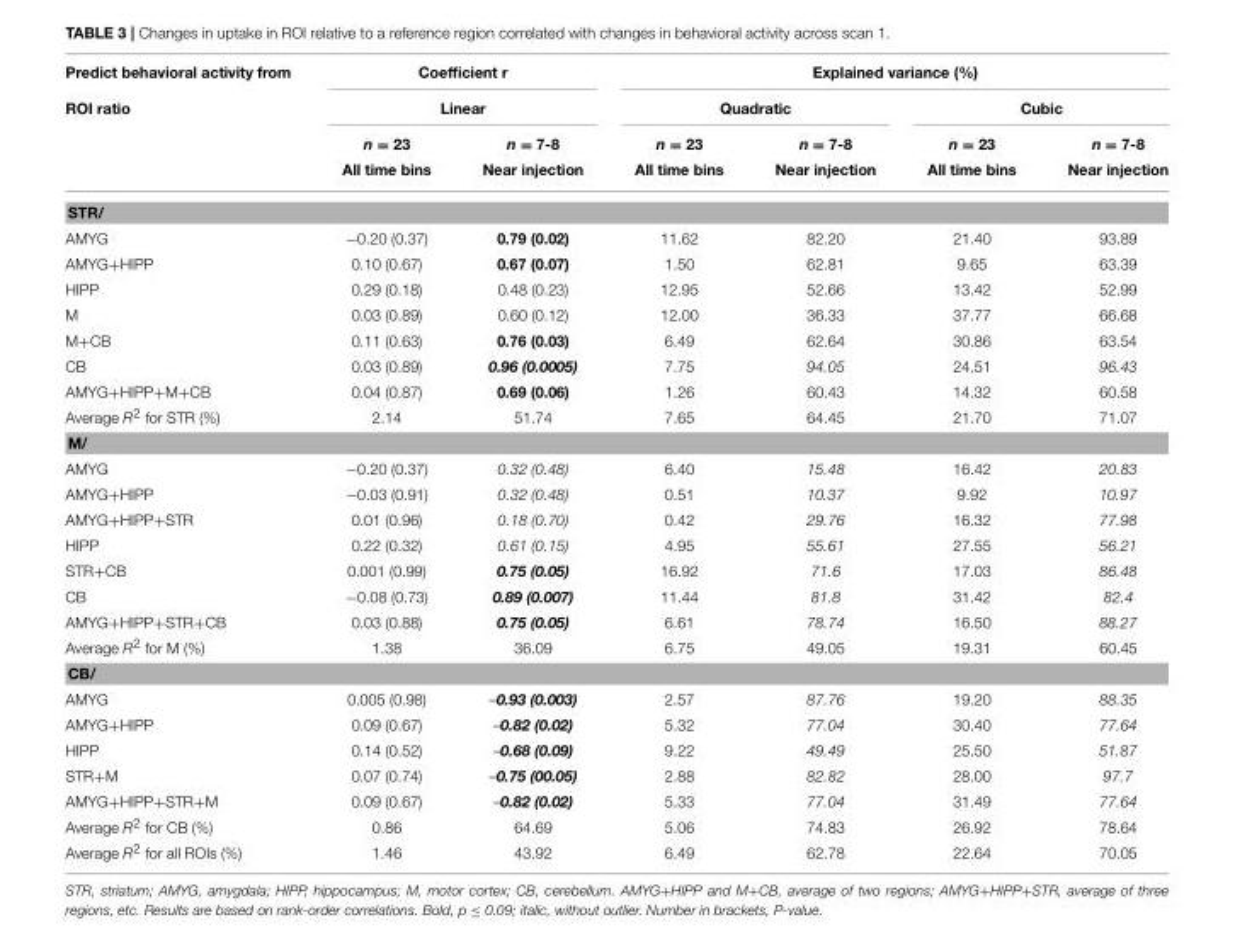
<table><thead><tr><td rowspan="4">Predict behavioral activity from ROI ratio</td><td rowspan="2" colspan="2">Coefficient r Linear</td><td colspan="4">Explained variance (%)</td></tr><tr><td colspan="2">Quadratic</td><td colspan="2">Cubic</td></tr><tr><td rowspan="2">n = 23 All time bins</td><td rowspan="2">n = 7-8 Near injection</td><td rowspan="2">n = 23 All time bins</td><td rowspan="2">n = 7-8 Near injection</td><td rowspan="2">n = 23 All time bins</td><td rowspan="2">n = 7-8 Near injection</td></tr><tr></tr></thead><tbody><tr><td colspan="7">STR/</td></tr><tr><td>AMYG</td><td>−0.20 (0.37)</td><td>0.79 (0.02)</td><td>11.62</td><td>82.20</td><td>21.40</td><td>93.89</td></tr><tr><td>AMYG+HIPP</td><td>0.10 (0.67)</td><td>0.67 (0.07)</td><td>1.50</td><td>62.81</td><td>9.65</td><td>63.39</td></tr><tr><td>HIPP</td><td>0.29 (0.18)</td><td>0.48 (0.23)</td><td>12.95</td><td>52.66</td><td>13.42</td><td>52.99</td></tr><tr><td>M</td><td>0.03 (0.89)</td><td>0.60 (0.12)</td><td>12.00</td><td>36.33</td><td>37.77</td><td>66.68</td></tr><tr><td>M+CB</td><td>0.11 (0.63)</td><td>0.76 (0.03)</td><td>6.49</td><td>62.64</td><td>30.86</td><td>63.54</td></tr><tr><td>CB</td><td>0.03 (0.89)</td><td>0.96 (0.0005)</td><td>7.75</td><td>94.05</td><td>24.51</td><td>96.43</td></tr><tr><td>AMYG+HIPP+M+CB</td><td>0.04 (0.87)</td><td>0.69 (0.06)</td><td>1.26</td><td>60.43</td><td>14.32</td><td>60.58</td></tr><tr><td>Average R<sup>2</sup> for STR (%)</td><td>2.14</td><td>51.74</td><td>7.65</td><td>64.45</td><td>21.70</td><td>71.07</td></tr><tr><td colspan="7">M/</td></tr><tr><td>AMYG</td><td>−0.20 (0.37)</td><td>0.32 (0.48)</td><td>6.40</td><td>15.48</td><td>16.42</td><td>20.83</td></tr><tr><td>AMYG+HIPP</td><td>−0.03 (0.91)</td><td>0.32 (0.48)</td><td>0.51</td><td>10.37</td><td>9.92</td><td>10.97</td></tr><tr><td>AMYG+HIPP+STR</td><td>0.01 (0.96)</td><td>0.18 (0.70)</td><td>0.42</td><td>29.76</td><td>16.32</td><td>77.98</td></tr><tr><td>HIPP</td><td>0.22 (0.32)</td><td>0.61 (0.15)</td><td>4.95</td><td>55.61</td><td>27.55</td><td>56.21</td></tr><tr><td>STR+CB</td><td>0.001 (0.99)</td><td>0.75 (0.05)</td><td>16.92</td><td>71.6</td><td>17.03</td><td>86.48</td></tr><tr><td>CB</td><td>−0.08 (0.73)</td><td>0.89 (0.007)</td><td>11.44</td><td>81.8</td><td>31.42</td><td>82.4</td></tr><tr><td>AMYG+HIPP+STR+CB</td><td>0.03 (0.88)</td><td>0.75 (0.05)</td><td>6.61</td><td>78.74</td><td>16.50</td><td>88.27</td></tr><tr><td>Average R<sup>2</sup> for M (%)</td><td>1.38</td><td>36.09</td><td>6.75</td><td>49.05</td><td>19.31</td><td>60.45</td></tr><tr><td colspan="7">CB/</td></tr><tr><td>AMYG</td><td>0.005 (0.98)</td><td>–0.93 (0.003)</td><td>2.57</td><td>87.76</td><td>19.20</td><td>88.35</td></tr><tr><td>AMYG+HIPP</td><td>0.09 (0.67)</td><td>–0.82 (0.02)</td><td>5.32</td><td>77.04</td><td>30.40</td><td>77.64</td></tr><tr><td>HIPP</td><td>0.14 (0.52)</td><td>–0.68 (0.09)</td><td>9.22</td><td>49.49</td><td>25.50</td><td>51.87</td></tr><tr><td>STR+M</td><td>0.07 (0.74)</td><td>–0.75 (00.05)</td><td>2.88</td><td>82.82</td><td>28.00</td><td>97.7</td></tr><tr><td>AMYG+HIPP+STR+M</td><td>0.09 (0.67)</td><td>–0.82 (0.02)</td><td>5.33</td><td>77.04</td><td>31.49</td><td>77.64</td></tr><tr><td>Average R<sup>2</sup> for CB (%)</td><td>0.86</td><td>64.69</td><td>5.06</td><td>74.83</td><td>26.92</td><td>78.64</td></tr><tr><td>Average R<sup>2</sup> for all ROIs (%)</td><td>1.46</td><td>43.92</td><td>6.49</td><td>62.78</td><td>22.64</td><td>70.05</td></tr></tbody></table>